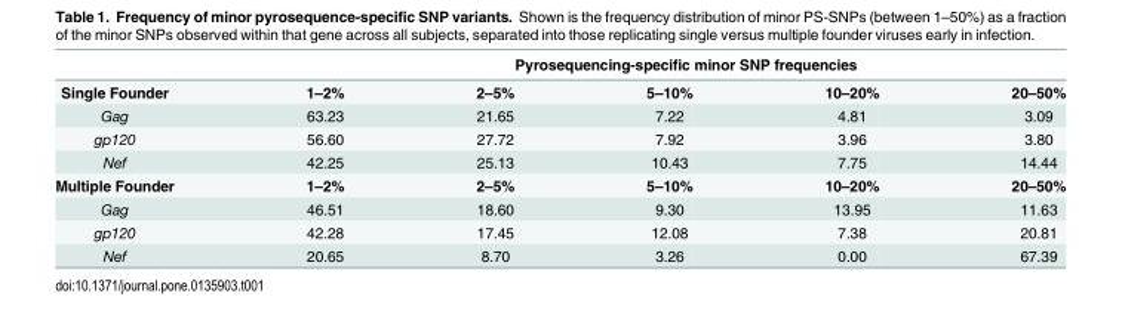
<table><thead><tr><td rowspan="2">Single Founder</td><td colspan="5">Pyrosequencing-specific minor SNP frequencies</td></tr><tr><td>1–2%</td><td>2–5%</td><td>5–10%</td><td>10–20%</td><td>20–50%</td></tr></thead><tbody><tr><td>Gag</td><td>63.23</td><td>21.65</td><td>7.22</td><td>4.81</td><td>3.09</td></tr><tr><td>gp120</td><td>56.60</td><td>27.72</td><td>7.92</td><td>3.96</td><td>3.80</td></tr><tr><td>Nef</td><td>42.25</td><td>25.13</td><td>10.43</td><td>7.75</td><td>14.44</td></tr><tr><td>Multiple Founder</td><td>1–2%</td><td>2–5%</td><td>5–10%</td><td>10–20%</td><td>20–50%</td></tr><tr><td>Gag</td><td>46.51</td><td>18.60</td><td>9.30</td><td>13.95</td><td>11.63</td></tr><tr><td>gp120</td><td>42.28</td><td>17.45</td><td>12.08</td><td>7.38</td><td>20.81</td></tr><tr><td>Nef</td><td>20.65</td><td>8.70</td><td>3.26</td><td>0.00</td><td>67.39</td></tr></tbody></table>